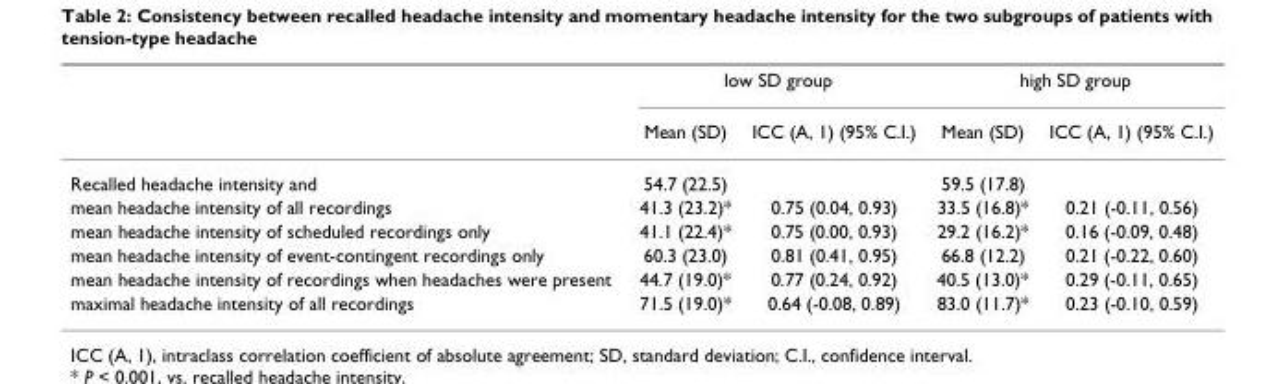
<table><thead><tr><td rowspan="2"></td><td colspan="2">low SD group</td><td colspan="2">high SD group</td></tr><tr><td>Mean (SD)</td><td>ICC (A, 1) (95% C.I.)</td><td>Mean (SD)</td><td>ICC (A, 1) (95% C.I.)</td></tr></thead><tbody><tr><td>Recalled headache intensity and</td><td>54.7 (22.5)</td><td></td><td>59.5 (17.8)</td><td></td></tr><tr><td>mean headache intensity of all recordings</td><td>41.3 (23.2)*</td><td>0.75 (0.04, 0.93)</td><td>33.5 (16.8)*</td><td>0.21 (-0.11, 0.56)</td></tr><tr><td>mean headache intensity of scheduled recordings only</td><td>41.1 (22.4)*</td><td>0.75 (0.00, 0.93)</td><td>29.2 (16.2)*</td><td>0.16 (-0.09, 0.48)</td></tr><tr><td>mean headache intensity of event-contingent recordings only</td><td>60.3 (23.0)</td><td>0.81 (0.41, 0.95)</td><td>66.8 (12.2)</td><td>0.21 (-0.22, 0.60)</td></tr><tr><td>mean headache intensity of recordings when headaches were present</td><td>44.7 (19.0)*</td><td>0.77 (0.24, 0.92)</td><td>40.5 (13.0)*</td><td>0.29 (-0.11, 0.65)</td></tr><tr><td>maximal headache intensity of all recordings</td><td>71.5 (19.0)*</td><td>0.64 (-0.08, 0.89)</td><td>83.0 (11.7)*</td><td>0.23 (-0.10, 0.59)</td></tr></tbody></table>